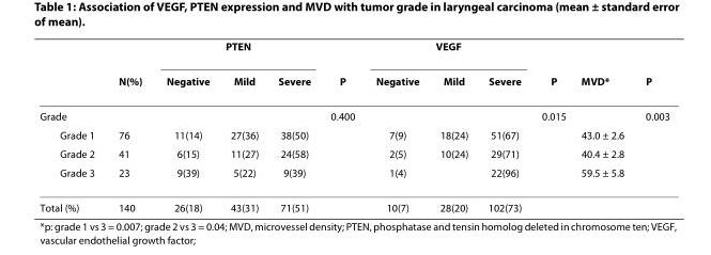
<table><thead><tr><td rowspan="2"></td><td rowspan="2">N(%)</td><td colspan="3">PTEN</td><td rowspan="2">P</td><td colspan="3">VEGF</td><td rowspan="2">P</td><td rowspan="2">MVD*</td><td rowspan="2">P</td></tr><tr><td>Negative</td><td>Mild</td><td>Severe</td><td>Negative</td><td>Mild</td><td>Severe</td></tr></thead><tbody><tr><td>Grade</td><td></td><td></td><td></td><td></td><td>0.400</td><td></td><td></td><td></td><td>0.015</td><td></td><td>0.003</td></tr><tr><td>Grade 1</td><td>76</td><td>11(14)</td><td>27(36)</td><td>38(50)</td><td></td><td>7(9)</td><td>18(24)</td><td>51(67)</td><td></td><td>43.0 ± 2.6</td><td></td></tr><tr><td>Grade 2</td><td>41</td><td>6(15)</td><td>11(27)</td><td>24(58)</td><td></td><td>2(5)</td><td>10(24)</td><td>29(71)</td><td></td><td>40.4 ± 2.8</td><td></td></tr><tr><td>Grade 3</td><td>23</td><td>9(39)</td><td>5(22)</td><td>9(39)</td><td></td><td>1(4)</td><td></td><td>22(96)</td><td></td><td>59.5 ± 5.8</td><td></td></tr><tr><td>Total (%)</td><td>140</td><td>26(18)</td><td>43(31)</td><td>71(51)</td><td></td><td>10(7)</td><td>28(20)</td><td>102(73)</td><td></td><td></td><td></td></tr></tbody></table>